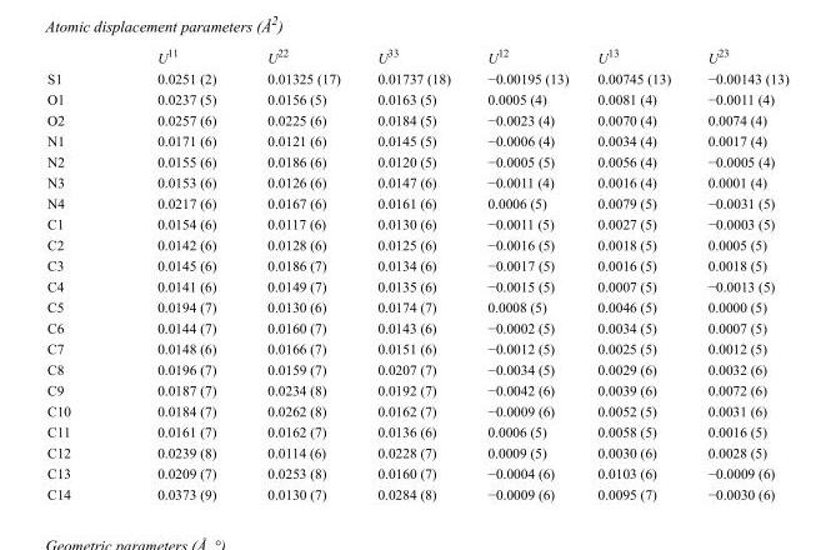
<table><thead><tr><td></td><td>U<sup>11</sup></td><td>U<sup>22</sup></td><td>U<sup>33</sup></td><td>U<sup>12</sup></td><td>U<sup>13</sup></td><td>U<sup>23</sup></td></tr></thead><tbody><tr><td>S1</td><td>0.0251 (2)</td><td>0.01325 (17)</td><td>0.01737 (18)</td><td>−0.00195 (13)</td><td>0.00745 (13)</td><td>−0.00143 (13)</td></tr><tr><td>O1</td><td>0.0237 (5)</td><td>0.0156 (5)</td><td>0.0163 (5)</td><td>0.0005 (4)</td><td>0.0081 (4)</td><td>−0.0011 (4)</td></tr><tr><td>O2</td><td>0.0257 (6)</td><td>0.0225 (6)</td><td>0.0184 (5)</td><td>−0.0023 (4)</td><td>0.0070 (4)</td><td>0.0074 (4)</td></tr><tr><td>N1</td><td>0.0171 (6)</td><td>0.0121 (6)</td><td>0.0145 (5)</td><td>−0.0006 (4)</td><td>0.0034 (4)</td><td>0.0017 (4)</td></tr><tr><td>N2</td><td>0.0155 (6)</td><td>0.0186 (6)</td><td>0.0120 (5)</td><td>−0.0005 (5)</td><td>0.0056 (4)</td><td>−0.0005 (4)</td></tr><tr><td>N3</td><td>0.0153 (6)</td><td>0.0126 (6)</td><td>0.0147 (6)</td><td>−0.0011 (4)</td><td>0.0016 (4)</td><td>0.0001 (4)</td></tr><tr><td>N4</td><td>0.0217 (6)</td><td>0.0167 (6)</td><td>0.0161 (6)</td><td>0.0006 (5)</td><td>0.0079 (5)</td><td>−0.0031 (5)</td></tr><tr><td>C1</td><td>0.0154 (6)</td><td>0.0117 (6)</td><td>0.0130 (6)</td><td>−0.0011 (5)</td><td>0.0027 (5)</td><td>−0.0003 (5)</td></tr><tr><td>C2</td><td>0.0142 (6)</td><td>0.0128 (6)</td><td>0.0125 (6)</td><td>−0.0016 (5)</td><td>0.0018 (5)</td><td>0.0005 (5)</td></tr><tr><td>C3</td><td>0.0145 (6)</td><td>0.0186 (7)</td><td>0.0134 (6)</td><td>−0.0017 (5)</td><td>0.0016 (5)</td><td>0.0018 (5)</td></tr><tr><td>C4</td><td>0.0141 (6)</td><td>0.0149 (7)</td><td>0.0135 (6)</td><td>−0.0015 (5)</td><td>0.0007 (5)</td><td>−0.0013 (5)</td></tr><tr><td>C5</td><td>0.0194 (7)</td><td>0.0130 (6)</td><td>0.0174 (7)</td><td>0.0008 (5)</td><td>0.0046 (5)</td><td>0.0000 (5)</td></tr><tr><td>C6</td><td>0.0144 (7)</td><td>0.0160 (7)</td><td>0.0143 (6)</td><td>−0.0002 (5)</td><td>0.0034 (5)</td><td>0.0007 (5)</td></tr><tr><td>C7</td><td>0.0148 (6)</td><td>0.0166 (7)</td><td>0.0151 (6)</td><td>−0.0012 (5)</td><td>0.0025 (5)</td><td>0.0012 (5)</td></tr><tr><td>C8</td><td>0.0196 (7)</td><td>0.0159 (7)</td><td>0.0207 (7)</td><td>−0.0034 (5)</td><td>0.0029 (6)</td><td>0.0032 (6)</td></tr><tr><td>C9</td><td>0.0187 (7)</td><td>0.0234 (8)</td><td>0.0192 (7)</td><td>−0.0042 (6)</td><td>0.0039 (6)</td><td>0.0072 (6)</td></tr><tr><td>C10</td><td>0.0184 (7)</td><td>0.0262 (8)</td><td>0.0162 (7)</td><td>−0.0009 (6)</td><td>0.0052 (5)</td><td>0.0031 (6)</td></tr><tr><td>C11</td><td>0.0161 (7)</td><td>0.0162 (7)</td><td>0.0136 (6)</td><td>0.0006 (5)</td><td>0.0058 (5)</td><td>0.0016 (5)</td></tr><tr><td>C12</td><td>0.0239 (8)</td><td>0.0114 (6)</td><td>0.0228 (7)</td><td>0.0009 (5)</td><td>0.0030 (6)</td><td>0.0028 (5)</td></tr><tr><td>C13</td><td>0.0209 (7)</td><td>0.0253 (8)</td><td>0.0160 (7)</td><td>−0.0004 (6)</td><td>0.0103 (6)</td><td>−0.0009 (6)</td></tr><tr><td>C14</td><td>0.0373 (9)</td><td>0.0130 (7)</td><td>0.0284 (8)</td><td>−0.0009 (6)</td><td>0.0095 (7)</td><td>−0.0030 (6)</td></tr></tbody></table>